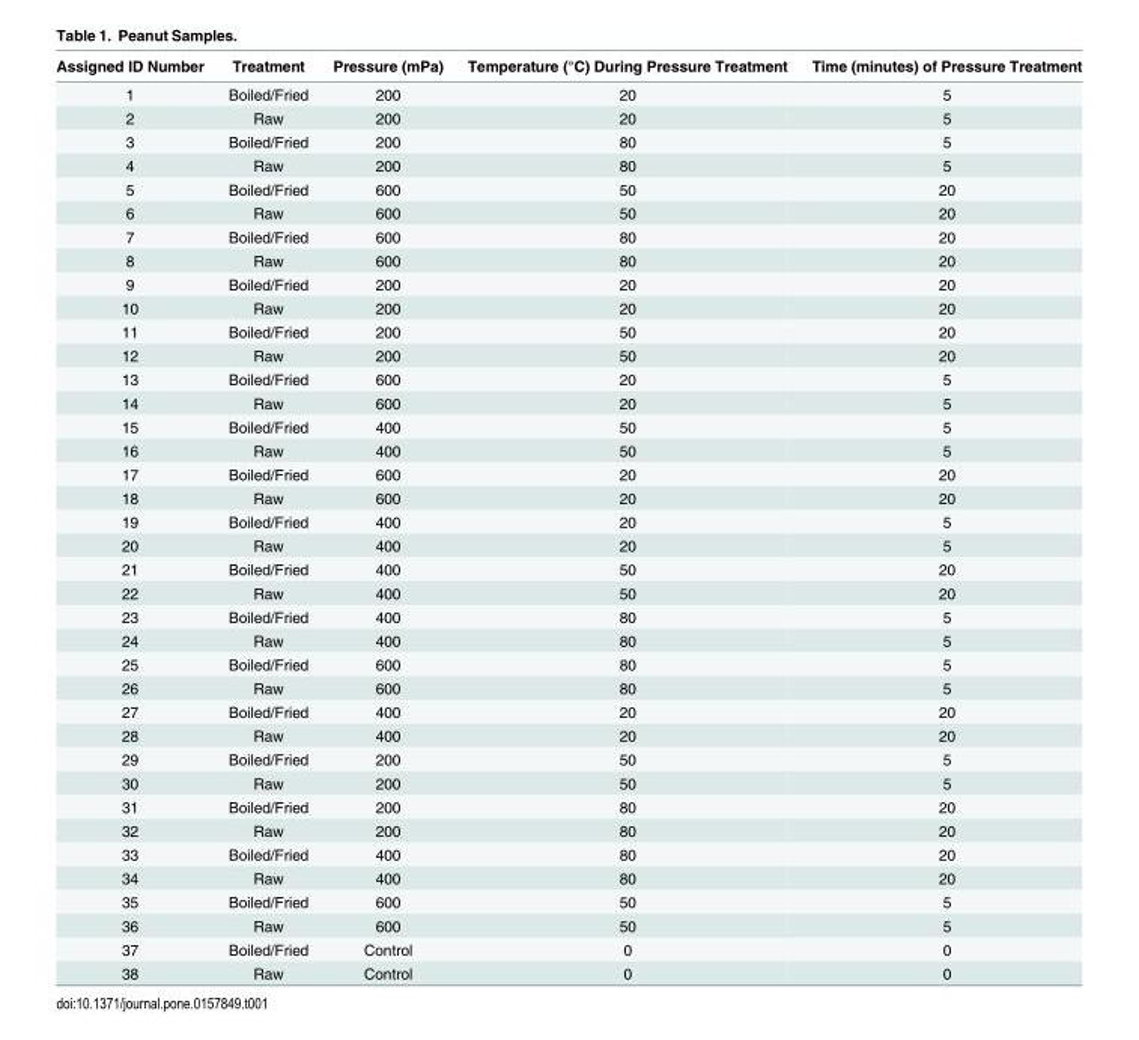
<table><thead><tr><td>Assigned ID Number</td><td>Treatment</td><td>Pressure (mPa)</td><td>Temperature (°C) During Pressure Treatment</td><td>Time (minutes) of Pressure Treatment</td></tr></thead><tbody><tr><td>1</td><td>Boiled/Fried</td><td>200</td><td>20</td><td>5</td></tr><tr><td>2</td><td>Raw</td><td>200</td><td>20</td><td>5</td></tr><tr><td>3</td><td>Boiled/Fried</td><td>200</td><td>80</td><td>5</td></tr><tr><td>4</td><td>Raw</td><td>200</td><td>80</td><td>5</td></tr><tr><td>5</td><td>Boiled/Fried</td><td>600</td><td>50</td><td>20</td></tr><tr><td>6</td><td>Raw</td><td>600</td><td>50</td><td>20</td></tr><tr><td>7</td><td>Boiled/Fried</td><td>600</td><td>80</td><td>20</td></tr><tr><td>8</td><td>Raw</td><td>600</td><td>80</td><td>20</td></tr><tr><td>9</td><td>Boiled/Fried</td><td>200</td><td>20</td><td>20</td></tr><tr><td>10</td><td>Raw</td><td>200</td><td>20</td><td>20</td></tr><tr><td>11</td><td>Boiled/Fried</td><td>200</td><td>50</td><td>20</td></tr><tr><td>12</td><td>Raw</td><td>200</td><td>50</td><td>20</td></tr><tr><td>13</td><td>Boiled/Fried</td><td>600</td><td>20</td><td>5</td></tr><tr><td>14</td><td>Raw</td><td>600</td><td>20</td><td>5</td></tr><tr><td>15</td><td>Boiled/Fried</td><td>400</td><td>50</td><td>5</td></tr><tr><td>16</td><td>Raw</td><td>400</td><td>50</td><td>5</td></tr><tr><td>17</td><td>Boiled/Fried</td><td>600</td><td>20</td><td>20</td></tr><tr><td>18</td><td>Raw</td><td>600</td><td>20</td><td>20</td></tr><tr><td>19</td><td>Boiled/Fried</td><td>400</td><td>20</td><td>5</td></tr><tr><td>20</td><td>Raw</td><td>400</td><td>20</td><td>5</td></tr><tr><td>21</td><td>Boiled/Fried</td><td>400</td><td>50</td><td>20</td></tr><tr><td>22</td><td>Raw</td><td>400</td><td>50</td><td>20</td></tr><tr><td>23</td><td>Boiled/Fried</td><td>400</td><td>80</td><td>5</td></tr><tr><td>24</td><td>Raw</td><td>400</td><td>80</td><td>5</td></tr><tr><td>25</td><td>Boiled/Fried</td><td>600</td><td>80</td><td>5</td></tr><tr><td>26</td><td>Raw</td><td>600</td><td>80</td><td>5</td></tr><tr><td>27</td><td>Boiled/Fried</td><td>400</td><td>20</td><td>20</td></tr><tr><td>28</td><td>Raw</td><td>400</td><td>20</td><td>20</td></tr><tr><td>29</td><td>Boiled/Fried</td><td>200</td><td>50</td><td>5</td></tr><tr><td>30</td><td>Raw</td><td>200</td><td>50</td><td>5</td></tr><tr><td>31</td><td>Boiled/Fried</td><td>200</td><td>80</td><td>20</td></tr><tr><td>32</td><td>Raw</td><td>200</td><td>80</td><td>20</td></tr><tr><td>33</td><td>Boiled/Fried</td><td>400</td><td>80</td><td>20</td></tr><tr><td>34</td><td>Raw</td><td>400</td><td>80</td><td>20</td></tr><tr><td>35</td><td>Boiled/Fried</td><td>600</td><td>50</td><td>5</td></tr><tr><td>36</td><td>Raw</td><td>600</td><td>50</td><td>5</td></tr><tr><td>37</td><td>Boiled/Fried</td><td>Control</td><td>0</td><td>0</td></tr><tr><td>38</td><td>Raw</td><td>Control</td><td>0</td><td>0</td></tr></tbody></table>